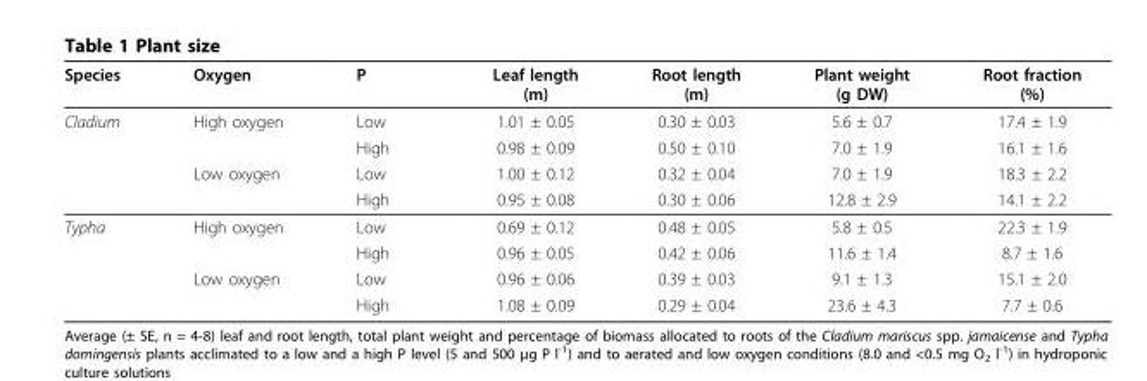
<table><thead><tr><td>Species</td><td>Oxygen</td><td>P</td><td>Leaf length (m)</td><td>Root length (m)</td><td>Plant weight (g DW)</td><td>Root fraction (%)</td></tr></thead><tbody><tr><td rowspan="4">Cladium</td><td>High oxygen</td><td>Low</td><td>1.01 ± 0.05</td><td>0.30 ± 0.03</td><td>5.6 ± 0.7</td><td>17.4 ± 1.9</td></tr><tr><td></td><td>High</td><td>0.98 ± 0.09</td><td>0.50 ± 0.10</td><td>7.0 ± 1.9</td><td>16.1 ± 1.6</td></tr><tr><td>Low oxygen</td><td>Low</td><td>1.00 ± 0.12</td><td>0.32 ± 0.04</td><td>7.0 ± 1.9</td><td>18.3 ± 2.2</td></tr><tr><td></td><td>High</td><td>0.95 ± 0.08</td><td>0.30 ± 0.06</td><td>12.8 ± 2.9</td><td>14.1 ± 2.2</td></tr><tr><td rowspan="4">Typha</td><td>High oxygen</td><td>Low</td><td>0.69 ± 0.12</td><td>0.48 ± 0.05</td><td>5.8 ± 0.5</td><td>22.3 ± 1.9</td></tr><tr><td></td><td>High</td><td>0.96 ± 0.05</td><td>0.42 ± 0.06</td><td>11.6 ± 1.4</td><td>8.7 ± 1.6</td></tr><tr><td>Low oxygen</td><td>Low</td><td>0.96 ± 0.06</td><td>0.39 ± 0.03</td><td>9.1 ± 1.3</td><td>15.1 ± 2.0</td></tr><tr><td></td><td>High</td><td>1.08 ± 0.09</td><td>0.29 ± 0.04</td><td>23.6 ± 4.3</td><td>7.7 ± 0.6</td></tr></tbody></table>